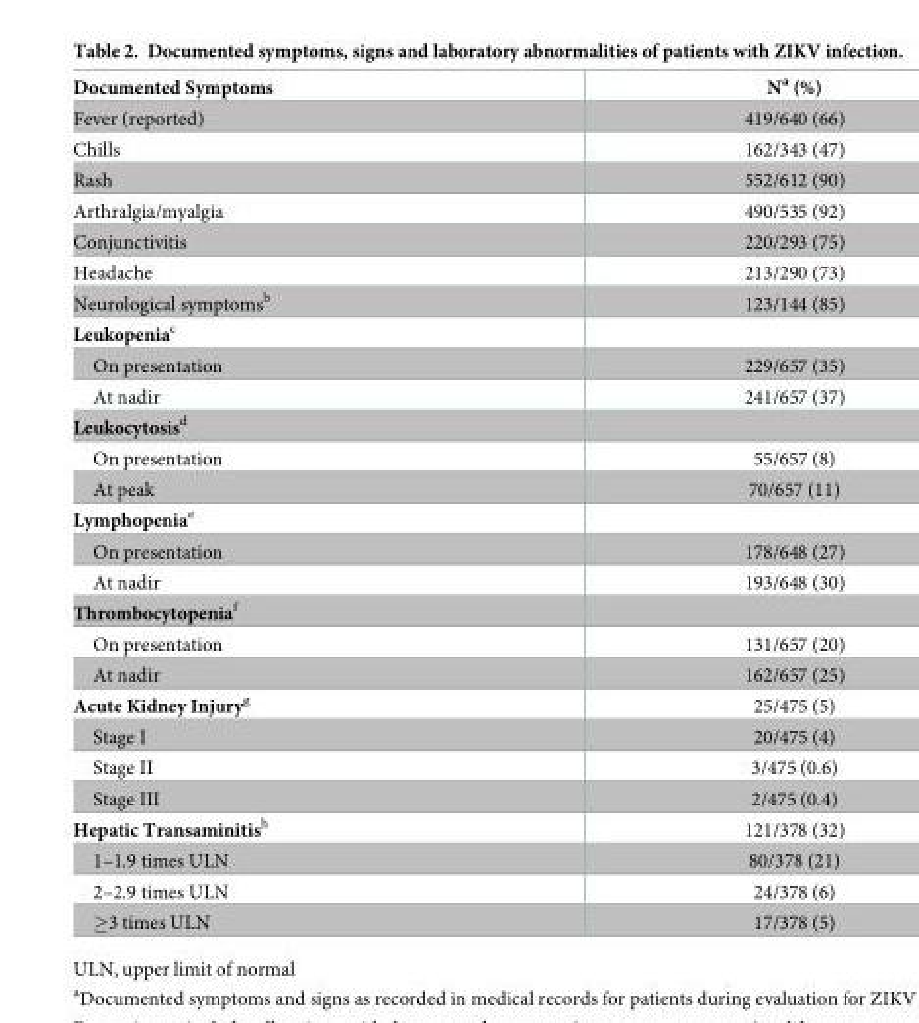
<table><thead><tr><td>Documented Symptoms</td><td>N<sup>a</sup> (%)</td></tr></thead><tbody><tr><td>Fever (reported)</td><td>419/640 (66)</td></tr><tr><td>Chills</td><td>162/343 (47)</td></tr><tr><td>Rash</td><td>552/612 (90)</td></tr><tr><td>Arthralgia/myalgia</td><td>490/535 (92)</td></tr><tr><td>Conjunctivitis</td><td>220/293 (75)</td></tr><tr><td>Headache</td><td>213/290 (73)</td></tr><tr><td>Neurological symptoms<sup>b</sup></td><td>123/144 (85)</td></tr><tr><td colspan="2">Leukopenia<sup>c</sup></td></tr><tr><td>On presentation</td><td>229/657 (35)</td></tr><tr><td>At nadir</td><td>241/657 (37)</td></tr><tr><td colspan="2">Leukocytosis<sup>d</sup></td></tr><tr><td>On presentation</td><td>55/657 (8)</td></tr><tr><td>At peak</td><td>70/657 (11)</td></tr><tr><td colspan="2">Lymphopenia<sup>e</sup></td></tr><tr><td>On presentation</td><td>178/648 (27)</td></tr><tr><td>At nadir</td><td>193/648 (30)</td></tr><tr><td colspan="2">Thrombocytopenia<sup>f</sup></td></tr><tr><td>On presentation</td><td>131/657 (20)</td></tr><tr><td>At nadir</td><td>162/657 (25)</td></tr><tr><td>Acute Kidney Injury<sup>g</sup></td><td>25/475 (5)</td></tr><tr><td>Stage I</td><td>20/475 (4)</td></tr><tr><td>Stage II</td><td>3/475 (0.6)</td></tr><tr><td>Stage III</td><td>2/475 (0.4)</td></tr><tr><td>Hepatic Transaminitis<sup>h</sup></td><td>121/378 (32)</td></tr><tr><td>1–1.9 times ULN</td><td>80/378 (21)</td></tr><tr><td>2–2.9 times ULN</td><td>24/378 (6)</td></tr><tr><td>≥3 times ULN</td><td>17/378 (5)</td></tr></tbody></table>